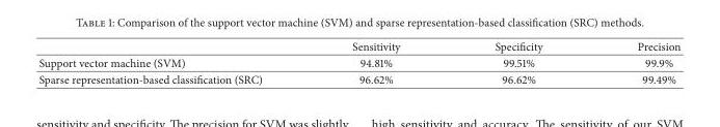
<table><thead><tr><td></td><td>Sensitivity</td><td>Specificity</td><td>Precision</td></tr></thead><tbody><tr><td>Support vector machine (SVM)</td><td>94.81%</td><td>99.51%</td><td>99.9%</td></tr><tr><td>Sparse representation-based classification (SRC)</td><td>96.62%</td><td>96.62%</td><td>99.49%</td></tr></tbody></table>